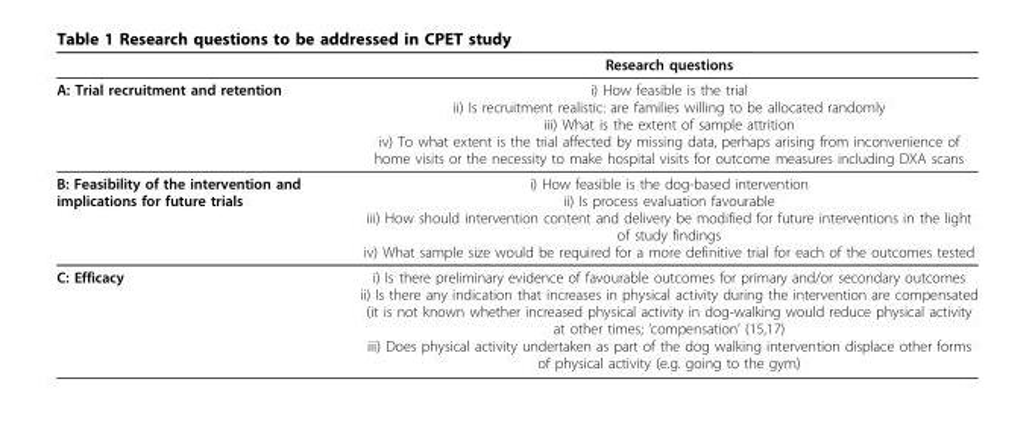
<table><thead><tr><td></td><td>Research questions</td></tr></thead><tbody><tr><td>A: Trial recruitment and retention</td><td>i) How feasible is the trial ii) Is recruitment realistic: are families willing to be allocated randomly iii) What is the extent of sample attrition iv) To what extent is the trial affected by missing data, perhaps arising from inconvenience of home visits or the necessity to make hospital visits for outcome measures including DXA scans</td></tr><tr><td>B: Feasibility of the intervention and implications for future trials</td><td>i) How feasible is the dog-based intervention ii) Is process evaluation favourable iii) How should intervention content and delivery be modified for future interventions in the light of study findings iv) What sample size would be required for a more definitive trial for each of the outcomes tested</td></tr><tr><td>C: Efficacy</td><td>i) Is there preliminary evidence of favourable outcomes for primary and/or secondary outcomes ii) Is there any indication that increases in physical activity during the intervention are compensated (it is not known whether increased physical activity in dog-walking would reduce physical activity at other times; ‘compensation’ (15,17) iii) Does physical activity undertaken as part of the dog walking intervention displace other forms of physical activity (e.g. going to the gym)</td></tr></tbody></table>